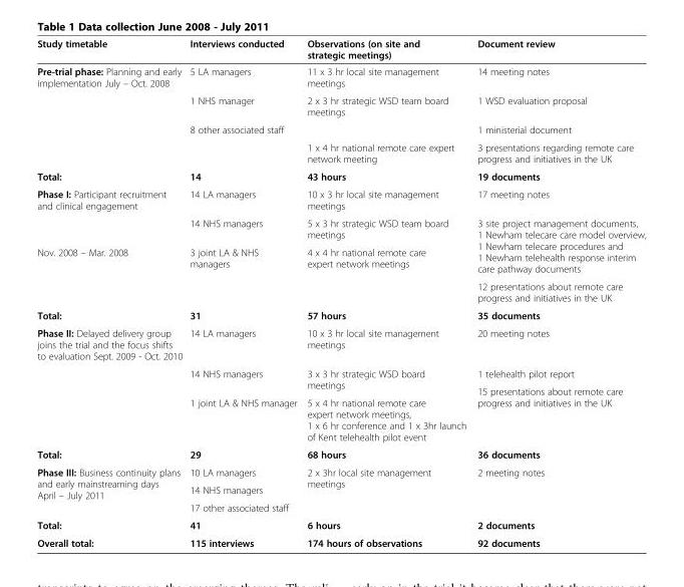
<table><thead><tr><td>Study timetable</td><td>Interviews conducted</td><td>Observations (on site and strategic meetings)</td><td>Document review</td></tr></thead><tbody><tr><td rowspan="4">Pre-trial phase: Planning and early implementation July – Oct. 2008</td><td>5 LA managers</td><td>11 x 3 hr local site management meetings</td><td>14 meeting notes</td></tr><tr><td>1 NHS manager</td><td>2 x 3 hr strategic WSD team board meetings</td><td>1 WSD evaluation proposal</td></tr><tr><td>8 other associated staff</td><td></td><td>1 ministerial document</td></tr><tr><td></td><td>1 x 4 hr national remote care expert network meeting</td><td>3 presentations regarding remote care progress and initiatives in the UK</td></tr><tr><td>Total:</td><td>14</td><td>43 hours</td><td>19 documents</td></tr><tr><td rowspan="2">Phase I: Participant recruitment and clinical engagement</td><td>14 LA managers</td><td>10 x 3 hr local site management meetings</td><td>17 meeting notes</td></tr><tr><td>14 NHS managers</td><td>5 x 3 hr strategic WSD team board meetings</td><td rowspan="2">3 site project management documents, 1 Newham telecare care model overview, 1 Newham telecare procedures and 1 Newham telehealth response interim care pathway documents</td></tr><tr><td rowspan="2">Nov. 2008 – Mar. 2008</td><td>3 joint LA &amp; NHS managers</td><td>4 x 4 hr national remote care expert network meetings</td></tr><tr><td></td><td></td><td>12 presentations about remote care progress and initiatives in the UK</td></tr><tr><td>Total:</td><td>31</td><td>57 hours</td><td>35 documents</td></tr><tr><td rowspan="4">Phase II: Delayed delivery group joins the trial and the focus shifts to evaluation Sept. 2009 - Oct. 2010</td><td>14 LA managers</td><td>10 x 3 hr local site management meetings</td><td>20 meeting notes</td></tr><tr><td rowspan="2">14 NHS managers</td><td rowspan="2">3 x 3 hr strategic WSD board meetings</td><td>1 telehealth pilot report</td></tr><tr><td rowspan="2">15 presentations about remote care progress and initiatives in the UK</td></tr><tr><td>1 joint LA &amp; NHS manager</td><td>5 x 4 hr national remote care expert network meetings, 1 x 6 hr conference and 1 x 3hr launch of Kent telehealth pilot event</td></tr><tr><td>Total:</td><td>29</td><td>68 hours</td><td>36 documents</td></tr><tr><td rowspan="3">Phase III: Business continuity plans and early mainstreaming days April – July 2011</td><td>10 LA managers</td><td rowspan="3">2 x 3hr local site management meetings</td><td rowspan="3">2 meeting notes</td></tr><tr><td>14 NHS managers</td></tr><tr><td>17 other associated staff</td></tr><tr><td>Total:</td><td>41</td><td>6 hours</td><td>2 documents</td></tr><tr><td>Overall total:</td><td>115 interviews</td><td>174 hours of observations</td><td>92 documents</td></tr></tbody></table>